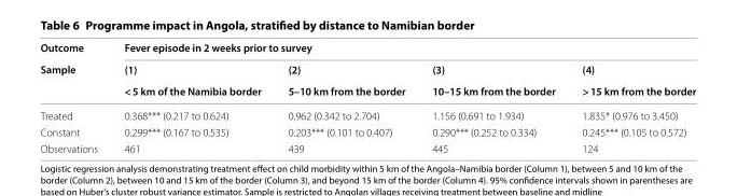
<table><thead><tr><td rowspan="3">Outcome Sample</td><td colspan="4">Fever episode in 2 weeks prior to survey</td></tr><tr><td rowspan="2">(1) &lt; 5 km of the Namibia border</td><td rowspan="2">(2) 5–10 km from the border</td><td rowspan="2">(3) 10–15 km from the border</td><td rowspan="2">(4) &gt; 15 km from the border</td></tr><tr></tr></thead><tbody><tr><td>Treated</td><td>0.368*** (0.217 to 0.624)</td><td>0.962 (0.342 to 2.704)</td><td>1.156 (0.691 to 1.934)</td><td>1.835* (0.976 to 3.450)</td></tr><tr><td>Constant</td><td>0.299*** (0.167 to 0.535)</td><td>0.203*** (0.101 to 0.407)</td><td>0.290*** (0.252 to 0.334)</td><td>0.245*** (0.105 to 0.572)</td></tr><tr><td>Observations</td><td>461</td><td>439</td><td>445</td><td>124</td></tr></tbody></table>